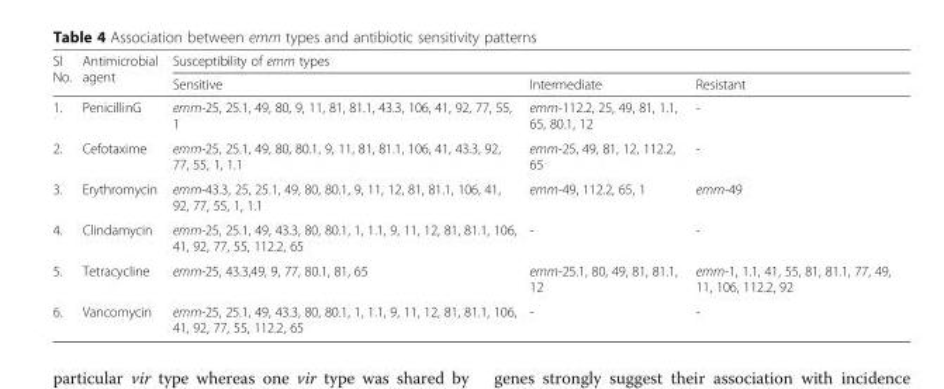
<table><thead><tr><td rowspan="2">Sl No.</td><td rowspan="2">Antimicrobial agent</td><td colspan="3">Susceptibility of emm types</td></tr><tr><td>Sensitive</td><td>Intermediate</td><td>Resistant</td></tr></thead><tbody><tr><td>1.</td><td>PenicillinG</td><td>emm-25, 25.1, 49, 80, 9, 11, 81, 81.1, 43.3, 106, 41, 92, 77, 55, 1</td><td>emm-112.2, 25, 49, 81, 1.1, 65, 80.1, 12</td><td>-</td></tr><tr><td>2.</td><td>Cefotaxime</td><td>emm-25, 25.1, 49, 80, 80.1, 9, 11, 81, 81.1, 106, 41, 43.3, 92, 77, 55, 1, 1.1</td><td>emm-25, 49, 81, 12, 112.2, 65</td><td>-</td></tr><tr><td>3.</td><td>Erythromycin</td><td>emm-43.3, 25, 25.1, 49, 80, 80.1, 9, 11, 12, 81, 81.1, 106, 41, 92, 77, 55, 1, 1.1</td><td>emm-49, 112.2, 65, 1</td><td>emm-49</td></tr><tr><td>4.</td><td>Clindamycin</td><td>emm-25, 25.1, 49, 43.3, 80, 80.1, 1, 1.1, 9, 11, 12, 81, 81.1, 106, 41, 92, 77, 55, 112.2, 65</td><td>-</td><td>-</td></tr><tr><td>5.</td><td>Tetracycline</td><td>emm-25, 43.3,49, 9, 77, 80.1, 81, 65</td><td>emm-25.1, 80, 49, 81, 81.1, 12</td><td>emm-1, 1.1, 41, 55, 81, 81.1, 77, 49, 11, 106, 112.2, 92</td></tr><tr><td>6.</td><td>Vancomycin</td><td>emm-25, 25.1, 49, 43.3, 80, 80.1, 1, 1.1, 9, 11, 12, 81, 81.1, 106, 41, 92, 77, 55, 112.2, 65</td><td>-</td><td>-</td></tr></tbody></table>